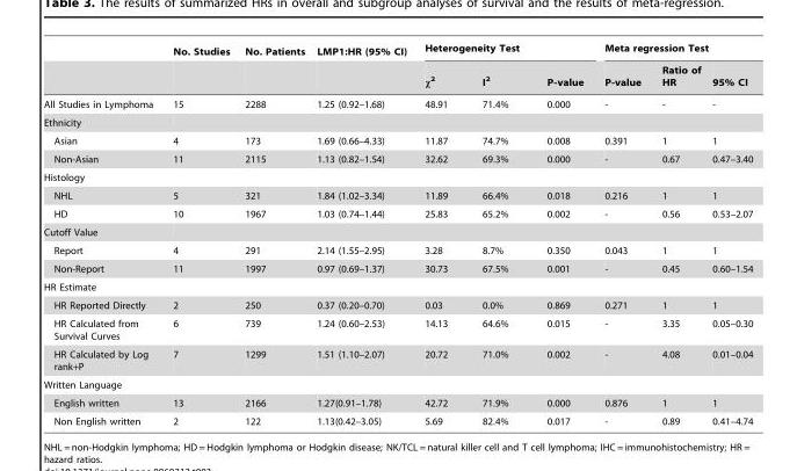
<table><thead><tr><td rowspan="2"></td><td rowspan="2">No. Studies</td><td rowspan="2">No. Patients</td><td rowspan="2">LMP1:HR (95% CI)</td><td colspan="3">Heterogeneity Test</td><td colspan="3">Meta regression Test</td></tr><tr><td>χ<sup>2</sup></td><td>I<sup>2</sup></td><td>P-value</td><td>P-value</td><td>Ratio of HR</td><td>95% CI</td></tr></thead><tbody><tr><td>All Studies in Lymphoma</td><td>15</td><td>2288</td><td>1.25 (0.92–1.68)</td><td>48.91</td><td>71.4%</td><td>0.000</td><td>-</td><td>-</td><td>-</td></tr><tr><td colspan="10">Ethnicity</td></tr><tr><td>Asian</td><td>4</td><td>173</td><td>1.69 (0.66–4.33)</td><td>11.87</td><td>74.7%</td><td>0.008</td><td>0.391</td><td>1</td><td>1</td></tr><tr><td>Non-Asian</td><td>11</td><td>2115</td><td>1.13 (0.82–1.54)</td><td>32.62</td><td>69.3%</td><td>0.000</td><td>-</td><td>0.67</td><td>0.47–3.40</td></tr><tr><td colspan="10">Histology</td></tr><tr><td>NHL</td><td>5</td><td>321</td><td>1.84 (1.02–3.34)</td><td>11.89</td><td>66.4%</td><td>0.018</td><td>0.216</td><td>1</td><td>1</td></tr><tr><td>HD</td><td>10</td><td>1967</td><td>1.03 (0.74–1.44)</td><td>25.83</td><td>65.2%</td><td>0.002</td><td>-</td><td>0.56</td><td>0.53–2.07</td></tr><tr><td colspan="10">Cutoff Value</td></tr><tr><td>Report</td><td>4</td><td>291</td><td>2.14 (1.55–2.95)</td><td>3.28</td><td>8.7%</td><td>0.350</td><td>0.043</td><td>1</td><td>1</td></tr><tr><td>Non-Report</td><td>11</td><td>1997</td><td>0.97 (0.69–1.37)</td><td>30.73</td><td>67.5%</td><td>0.001</td><td>-</td><td>0.45</td><td>0.60–1.54</td></tr><tr><td colspan="10">HR Estimate</td></tr><tr><td>HR Reported Directly</td><td>2</td><td>250</td><td>0.37 (0.20–0.70)</td><td>0.03</td><td>0.0%</td><td>0.869</td><td>0.271</td><td>1</td><td>1</td></tr><tr><td>HR Calculated from Survival Curves</td><td>6</td><td>739</td><td>1.24 (0.60–2.53)</td><td>14.13</td><td>64.6%</td><td>0.015</td><td>-</td><td>3.35</td><td>0.05–0.30</td></tr><tr><td>HR Calculated by Log rank+P</td><td>7</td><td>1299</td><td>1.51 (1.10–2.07)</td><td>20.72</td><td>71.0%</td><td>0.002</td><td>-</td><td>4.08</td><td>0.01–0.04</td></tr><tr><td colspan="10">Written Language</td></tr><tr><td>English written</td><td>13</td><td>2166</td><td>1.27(0.91–1.78)</td><td>42.72</td><td>71.9%</td><td>0.000</td><td>0.876</td><td>1</td><td>1</td></tr><tr><td>Non English written</td><td>2</td><td>122</td><td>1.13(0.42–3.05)</td><td>5.69</td><td>82.4%</td><td>0.017</td><td>-</td><td>0.89</td><td>0.41–4.74</td></tr></tbody></table>